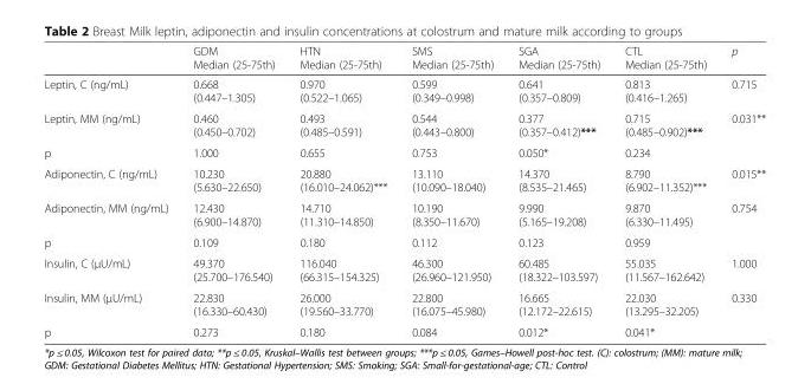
<table><thead><tr><td></td><td>GDM Median (25-75th)</td><td>HTN Median (25-75th)</td><td>SMS Median (25-75th)</td><td>SGA Median (25-75th)</td><td>CTL Median (25-75th)</td><td>p</td></tr></thead><tbody><tr><td>Leptin, C (ng/mL)</td><td>0.668 (0.447–1.305)</td><td>0.970 (0.522–1.065)</td><td>0.599 (0.349–0.998)</td><td>0.641 (0.357–0.809)</td><td>0.813 (0.416–1.265)</td><td>0.715</td></tr><tr><td>Leptin, MM (ng/mL)</td><td>0.460 (0.450–0.702)</td><td>0.493 (0.485–0.591)</td><td>0.544 (0.443–0.800)</td><td>0.377 (0.357–0.412)***</td><td>0.715 (0.485–0.902)***</td><td>0.031**</td></tr><tr><td>p</td><td>1.000</td><td>0.655</td><td>0.753</td><td>0.050*</td><td>0.234</td><td></td></tr><tr><td>Adiponectin, C (ng/mL)</td><td>10.230 (5.630–22.650)</td><td>20.880 (16.010–24.062)***</td><td>13.110 (10.090–18.040)</td><td>14.370 (8.535–21.465)</td><td>8.790 (6.902–11.352)***</td><td>0.015**</td></tr><tr><td>Adiponectin, MM (ng/mL)</td><td>12.430 (6.900–14.870)</td><td>14.710 (11.310–14.850)</td><td>10.190 (8.350–11.670)</td><td>9.990 (5.165–19.208)</td><td>9.870 (6.330–11.495)</td><td>0.754</td></tr><tr><td>p</td><td>0.109</td><td>0.180</td><td>0.112</td><td>0.123</td><td>0.959</td><td></td></tr><tr><td>Insulin, C (μU/mL)</td><td>49.370 (25.700–176.540)</td><td>116.040 (66.315–154.325)</td><td>46.300 (26.960–121.950)</td><td>60.485 (18.322–103.597)</td><td>55.035 (11.567–162.642)</td><td>1.000</td></tr><tr><td>Insulin, MM (μU/mL)</td><td>22.830 (16.330–60.430)</td><td>26.000 (19.560–33.770)</td><td>22.800 (16.075–45.980)</td><td>16.665 (12.172–22.615)</td><td>22.030 (13.295–32.205)</td><td>0.330</td></tr><tr><td>p</td><td>0.273</td><td>0.180</td><td>0.084</td><td>0.012*</td><td>0.041*</td><td></td></tr></tbody></table>